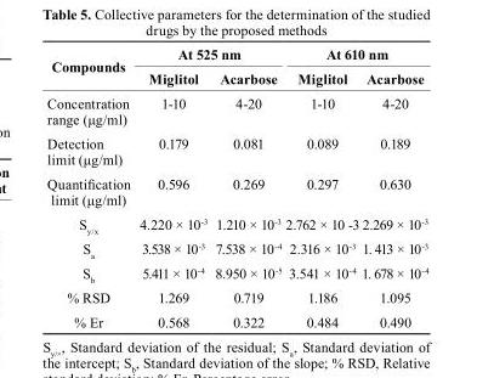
<table><thead><tr><td rowspan="2">compounds</td><td colspan="2">At 525 nm</td><td colspan="2">At 610 nm</td></tr><tr><td>Miglitol</td><td>Acarbose</td><td>Miglitol</td><td>Acarbose</td></tr></thead><tbody><tr><td>Concentration range (μg/ml)</td><td>1-10</td><td>4-20</td><td>1-10</td><td>4-20</td></tr><tr><td>Detection limit (μg/ml)</td><td>0.179</td><td>0.081</td><td>0.089</td><td>0.189</td></tr><tr><td>Quantification limit (μg/ml)</td><td>0.596</td><td>0.269</td><td>0.297</td><td>0.630</td></tr><tr><td>S<sub>y/x</sub></td><td>4.220 × 10<sup>-3</sup></td><td>1.210 × 10<sup>-3</sup></td><td>2.762 × 10 <sup>-3</sup></td><td>2.269 × 10<sup>-3</sup></td></tr><tr><td>S<sub>a</sub></td><td>3.538 × 10<sup>-3</sup></td><td>7.538 × 10<sup>-4</sup></td><td>2.316 × 10<sup>-3</sup></td><td>1. 413 × 10<sup>-3</sup></td></tr><tr><td>S<sub>b</sub></td><td>5.411 × 10<sup>-4</sup></td><td>8.950 × 10<sup>-5</sup></td><td>3.541 × 10<sup>-4</sup></td><td>1. 678 × 10<sup>-4</sup></td></tr><tr><td>% RSD</td><td>1.269</td><td>0.719</td><td>1.186</td><td>1.095</td></tr><tr><td>% Er</td><td>0.568</td><td>0.322</td><td>0.484</td><td>0.490</td></tr></tbody></table>